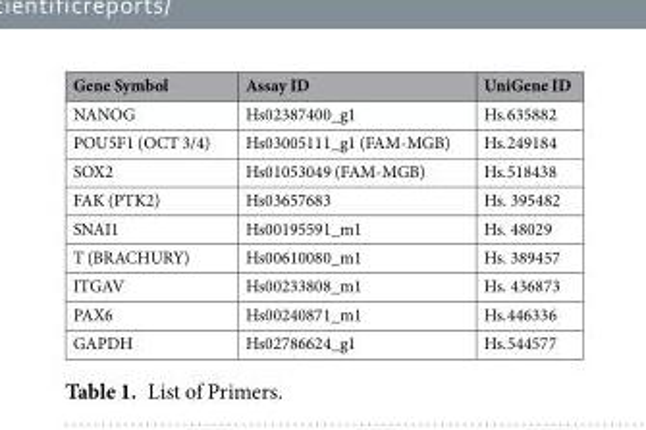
<table><thead><tr><td>Gene Symbol</td><td>Assay ID</td><td>UniGene ID</td></tr></thead><tbody><tr><td>NANOG</td><td>Hs02387400_g1</td><td>Hs.635882</td></tr><tr><td>POU5F1 (OCT 3/4)</td><td>Hs03005111_g1 (FAM-MGB)</td><td>Hs.249184</td></tr><tr><td>SOX2</td><td>Hs01053049 (FAM-MGB)</td><td>Hs.518438</td></tr><tr><td>FAK (PTK2)</td><td>Hs03657683</td><td>Hs. 395482</td></tr><tr><td>SNAI1</td><td>Hs00195591_m1</td><td>Hs. 48029</td></tr><tr><td>T (BRACHURY)</td><td>Hs00610080_m1</td><td>Hs. 389457</td></tr><tr><td>ITGAV</td><td>Hs00233808_m1</td><td>Hs. 436873</td></tr><tr><td>PAX6</td><td>Hs00240871_m1</td><td>Hs.446336</td></tr><tr><td>GAPDH</td><td>Hs02786624_g1</td><td>Hs.544577</td></tr></tbody></table>